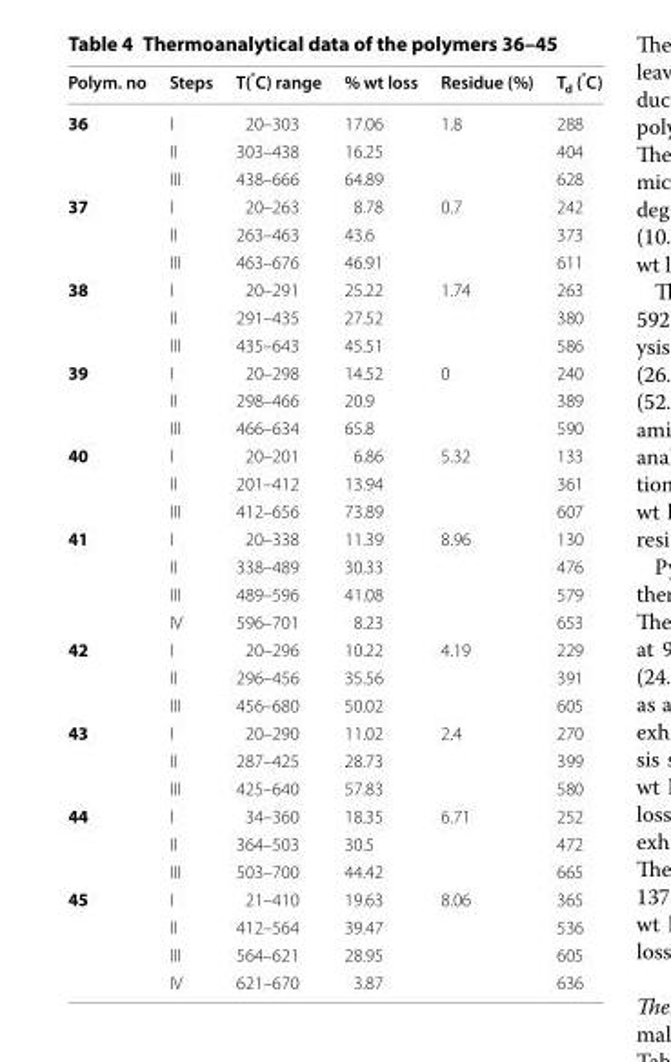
<table><thead><tr><td>Polym. no</td><td>Steps</td><td>T(<sup>°</sup>C) range</td><td>% wt loss</td><td>Residue (%)</td><td>T<sub>d</sub> (<sup>°</sup>C)</td></tr></thead><tbody><tr><td rowspan="3">36</td><td>I</td><td>20–303</td><td>17.06</td><td>1.8</td><td>288</td></tr><tr><td>II</td><td>303–438</td><td>16.25</td><td></td><td>404</td></tr><tr><td>III</td><td>438–666</td><td>64.89</td><td></td><td>628</td></tr><tr><td rowspan="3">37</td><td>I</td><td>20–263</td><td>8.78</td><td>0.7</td><td>242</td></tr><tr><td>II</td><td>263–463</td><td>43.6</td><td></td><td>373</td></tr><tr><td>III</td><td>463–676</td><td>46.91</td><td></td><td>611</td></tr><tr><td rowspan="3">38</td><td>I</td><td>20–291</td><td>25.22</td><td>1.74</td><td>263</td></tr><tr><td>II</td><td>291–435</td><td>27.52</td><td></td><td>380</td></tr><tr><td>III</td><td>435–643</td><td>45.51</td><td></td><td>586</td></tr><tr><td rowspan="3">39</td><td>I</td><td>20–298</td><td>14.52</td><td>0</td><td>240</td></tr><tr><td>II</td><td>298–466</td><td>20.9</td><td></td><td>389</td></tr><tr><td>III</td><td>466–634</td><td>65.8</td><td></td><td>590</td></tr><tr><td rowspan="3">40</td><td>I</td><td>20–201</td><td>6.86</td><td>5.32</td><td>133</td></tr><tr><td>II</td><td>201–412</td><td>13.94</td><td></td><td>361</td></tr><tr><td>III</td><td>412–656</td><td>73.89</td><td></td><td>607</td></tr><tr><td rowspan="4">41</td><td>I</td><td>20–338</td><td>11.39</td><td>8.96</td><td>130</td></tr><tr><td>II</td><td>338–489</td><td>30.33</td><td></td><td>476</td></tr><tr><td>III</td><td>489–596</td><td>41.08</td><td></td><td>579</td></tr><tr><td>IV</td><td>596–701</td><td>8.23</td><td></td><td>653</td></tr><tr><td rowspan="3">42</td><td>I</td><td>20–296</td><td>10.22</td><td>4.19</td><td>229</td></tr><tr><td>II</td><td>296–456</td><td>35.56</td><td></td><td>391</td></tr><tr><td>III</td><td>456–680</td><td>50.02</td><td></td><td>605</td></tr><tr><td rowspan="3">43</td><td>I</td><td>20–290</td><td>11.02</td><td>2.4</td><td>270</td></tr><tr><td>II</td><td>287–425</td><td>28.73</td><td></td><td>399</td></tr><tr><td>III</td><td>425–640</td><td>57.83</td><td></td><td>580</td></tr><tr><td rowspan="3">44</td><td>I</td><td>34–360</td><td>18.35</td><td>6.71</td><td>252</td></tr><tr><td>II</td><td>364–503</td><td>30.5</td><td></td><td>472</td></tr><tr><td>III</td><td>503–700</td><td>44.42</td><td></td><td>665</td></tr><tr><td rowspan="4">45</td><td>I</td><td>21–410</td><td>19.63</td><td>8.06</td><td>365</td></tr><tr><td>II</td><td>412–564</td><td>39.47</td><td></td><td>536</td></tr><tr><td>III</td><td>564–621</td><td>28.95</td><td></td><td>605</td></tr><tr><td>IV</td><td>621–670</td><td>3.87</td><td></td><td>636</td></tr></tbody></table>